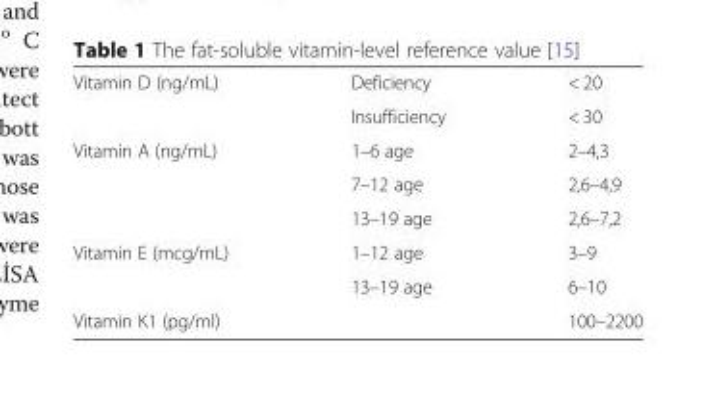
<table><tbody><tr><td rowspan="2">Vitamin D (ng/mL)</td><td>Deficiency</td><td>&lt; 20</td></tr><tr><td>Insufficiency</td><td>&lt; 30</td></tr><tr><td rowspan="3">Vitamin A (ng/mL)</td><td>1–6 age</td><td>2–4,3</td></tr><tr><td>7–12 age</td><td>2,6–4,9</td></tr><tr><td>13–19 age</td><td>2,6–7,2</td></tr><tr><td rowspan="2">Vitamin E (mcg/mL)</td><td>1–12 age</td><td>3–9</td></tr><tr><td>13–19 age</td><td>6–10</td></tr><tr><td>Vitamin K1 (pg/ml)</td><td></td><td>100–2200</td></tr></tbody></table>